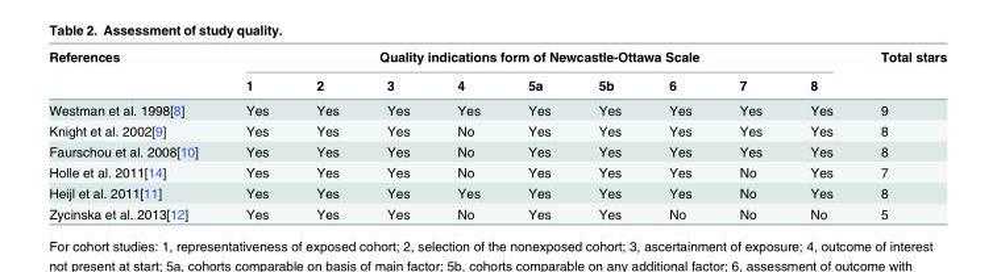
<table><thead><tr><td rowspan="2">References</td><td colspan="9">Quality indications form of Newcastle-Ottawa Scale</td><td rowspan="2">Total stars</td></tr><tr><td>1</td><td>2</td><td>3</td><td>4</td><td>5a</td><td>5b</td><td>6</td><td>7</td><td>8</td></tr></thead><tbody><tr><td>Westman et al. 1998[8]</td><td>Yes</td><td>Yes</td><td>Yes</td><td>Yes</td><td>Yes</td><td>Yes</td><td>Yes</td><td>Yes</td><td>Yes</td><td>9</td></tr><tr><td>Knight et al. 2002[9]</td><td>Yes</td><td>Yes</td><td>Yes</td><td>No</td><td>Yes</td><td>Yes</td><td>Yes</td><td>Yes</td><td>Yes</td><td>8</td></tr><tr><td>Faurschou et al. 2008[10]</td><td>Yes</td><td>Yes</td><td>Yes</td><td>No</td><td>Yes</td><td>Yes</td><td>Yes</td><td>Yes</td><td>Yes</td><td>8</td></tr><tr><td>Holle et al. 2011[14]</td><td>Yes</td><td>Yes</td><td>Yes</td><td>No</td><td>Yes</td><td>Yes</td><td>Yes</td><td>No</td><td>Yes</td><td>7</td></tr><tr><td>Heijl et al. 2011[11]</td><td>Yes</td><td>Yes</td><td>Yes</td><td>Yes</td><td>Yes</td><td>Yes</td><td>Yes</td><td>No</td><td>Yes</td><td>8</td></tr><tr><td>Zycinska et al. 2013[12]</td><td>Yes</td><td>Yes</td><td>Yes</td><td>No</td><td>Yes</td><td>Yes</td><td>No</td><td>No</td><td>No</td><td>5</td></tr></tbody></table>